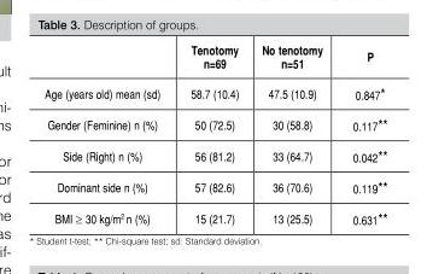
<table><thead><tr><td></td><td>Tenotomy n=69</td><td>No tenotomy n=51</td><td>P</td></tr></thead><tbody><tr><td>Age (years old) mean (sd)</td><td>58.7 (10.4)</td><td>47.5 (10.9)</td><td>0.847*</td></tr><tr><td>Gender (Feminine) n (%)</td><td>50 (72.5)</td><td>30 (58.8)</td><td>0.117**</td></tr><tr><td>Side (Right) n (%)</td><td>56 (81.2)</td><td>33 (64.7)</td><td>0.042**</td></tr><tr><td>Dominant side n (%)</td><td>57 (82.6)</td><td>36 (70.6)</td><td>0.119**</td></tr><tr><td>BMI ≥ 30 kg/m<sup>2</sup> n (%)</td><td>15 (21.7)</td><td>13 (25.5)</td><td>0.631**</td></tr></tbody></table>